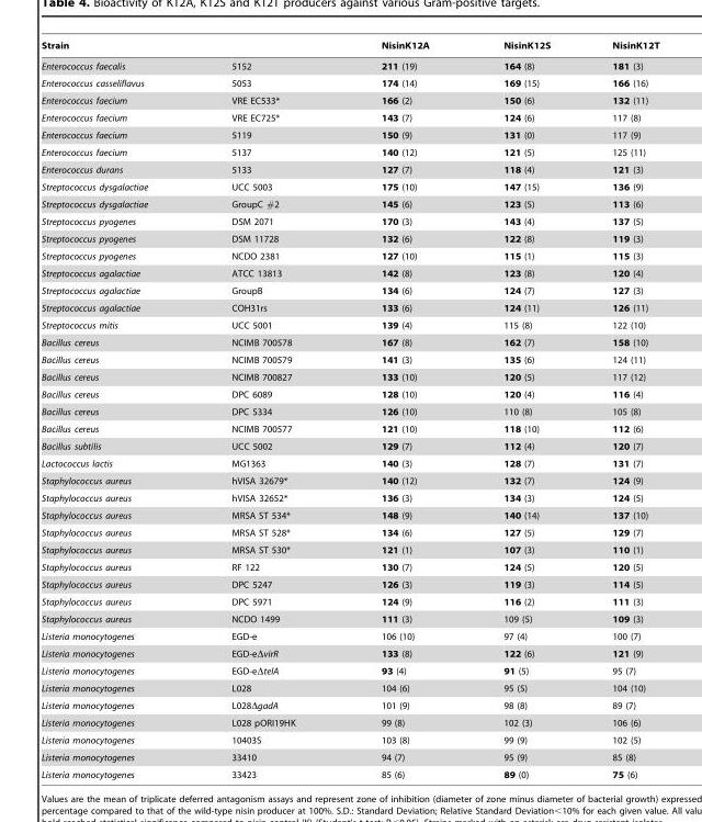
<table><thead><tr><td>Strain</td><td></td><td>NisinK12A</td><td>NisinK12S</td><td>NisinK12T</td></tr></thead><tbody><tr><td>Enterococcus faecalis</td><td>5152</td><td>211 (19)</td><td>164 (8)</td><td>181 (3)</td></tr><tr><td>Enterococcus casseliflavus</td><td>5053</td><td>174 (14)</td><td>169 (15)</td><td>166 (16)</td></tr><tr><td>Enterococcus faecium</td><td>VRE EC533*</td><td>166 (2)</td><td>150 (6)</td><td>132 (11)</td></tr><tr><td>Enterococcus faecium</td><td>VRE EC725*</td><td>143 (7)</td><td>124 (6)</td><td>117 (8)</td></tr><tr><td>Enterococcus faecium</td><td>5119</td><td>150 (9)</td><td>131 (0)</td><td>117 (9)</td></tr><tr><td>Enterococcus faecium</td><td>5137</td><td>140 (12)</td><td>121 (5)</td><td>125 (11)</td></tr><tr><td>Enterococcus durans</td><td>5133</td><td>127 (7)</td><td>118 (4)</td><td>121 (3)</td></tr><tr><td>Streptococcus dysgalactiae</td><td>UCC 5003</td><td>175 (10)</td><td>147 (15)</td><td>136 (9)</td></tr><tr><td>Streptococcus dysgalactiae</td><td>GroupC #2</td><td>145 (6)</td><td>123 (5)</td><td>113 (6)</td></tr><tr><td>Streptococcus pyogenes</td><td>DSM 2071</td><td>170 (3)</td><td>143 (4)</td><td>137 (5)</td></tr><tr><td>Streptococcus pyogenes</td><td>DSM 11728</td><td>132 (6)</td><td>122 (8)</td><td>119 (3)</td></tr><tr><td>Streptococcus pyogenes</td><td>NCDO 2381</td><td>127 (10)</td><td>115 (1)</td><td>115 (3)</td></tr><tr><td>Streptococcus agalactiae</td><td>ATCC 13813</td><td>142 (8)</td><td>123 (8)</td><td>120 (4)</td></tr><tr><td>Streptococcus agalactiae</td><td>GroupB</td><td>134 (6)</td><td>124 (7)</td><td>127 (3)</td></tr><tr><td>Streptococcus agalactiae</td><td>COH31rs</td><td>133 (6)</td><td>124 (11)</td><td>126 (11)</td></tr><tr><td>Streptococcus mitis</td><td>UCC 5001</td><td>139 (4)</td><td>115 (8)</td><td>122 (10)</td></tr><tr><td>Bacillus cereus</td><td>NCIMB 700578</td><td>167 (8)</td><td>162 (7)</td><td>158 (10)</td></tr><tr><td>Bacillus cereus</td><td>NCIMB 700579</td><td>141 (3)</td><td>135 (6)</td><td>124 (11)</td></tr><tr><td>Bacillus cereus</td><td>NCIMB 700827</td><td>133 (10)</td><td>120 (5)</td><td>117 (12)</td></tr><tr><td>Bacillus cereus</td><td>DPC 6089</td><td>128 (10)</td><td>120 (4)</td><td>116 (4)</td></tr><tr><td>Bacillus cereus</td><td>DPC 5334</td><td>126 (10)</td><td>110 (8)</td><td>105 (8)</td></tr><tr><td>Bacillus cereus</td><td>NCIMB 700577</td><td>121 (10)</td><td>118 (10)</td><td>112 (6)</td></tr><tr><td>Bacillus subtilis</td><td>UCC 5002</td><td>129 (7)</td><td>112 (4)</td><td>120 (7)</td></tr><tr><td>Lactococcus lactis</td><td>MG1363</td><td>140 (3)</td><td>128 (7)</td><td>131 (7)</td></tr><tr><td>Staphylococcus aureus</td><td>hVISA 32679*</td><td>140 (12)</td><td>132 (7)</td><td>124 (9)</td></tr><tr><td>Staphylococcus aureus</td><td>hVISA 32652*</td><td>136 (3)</td><td>134 (3)</td><td>124 (5)</td></tr><tr><td>Staphylococcus aureus</td><td>MRSA ST 534*</td><td>148 (9)</td><td>140 (14)</td><td>137 (10)</td></tr><tr><td>Staphylococcus aureus</td><td>MRSA ST 528*</td><td>134 (6)</td><td>127 (5)</td><td>129 (7)</td></tr><tr><td>Staphylococcus aureus</td><td>MRSA ST 530*</td><td>121 (1)</td><td>107 (3)</td><td>110 (1)</td></tr><tr><td>Staphylococcus aureus</td><td>RF 122</td><td>130 (7)</td><td>124 (5)</td><td>120 (5)</td></tr><tr><td>Staphylococcus aureus</td><td>DPC 5247</td><td>126 (3)</td><td>119 (3)</td><td>114 (5)</td></tr><tr><td>Staphylococcus aureus</td><td>DPC 5971</td><td>124 (9)</td><td>116 (2)</td><td>111 (3)</td></tr><tr><td>Staphylococcus aureus</td><td>NCDO 1499</td><td>111 (3)</td><td>109 (5)</td><td>109 (3)</td></tr><tr><td>Listeria monocytogenes</td><td>EGD-e</td><td>106 (10)</td><td>97 (4)</td><td>100 (7)</td></tr><tr><td>Listeria monocytogenes</td><td>EGD-eΔvirR</td><td>133 (8)</td><td>122 (6)</td><td>121 (9)</td></tr><tr><td>Listeria monocytogenes</td><td>EGD-eΔtelA</td><td>93 (4)</td><td>91 (5)</td><td>95 (7)</td></tr><tr><td>Listeria monocytogenes</td><td>L028</td><td>104 (6)</td><td>95 (5)</td><td>104 (10)</td></tr><tr><td>Listeria monocytogenes</td><td>L028ΔgadA</td><td>101 (9)</td><td>98 (8)</td><td>89 (7)</td></tr><tr><td>Listeria monocytogenes</td><td>L028 pORI19HK</td><td>99 (8)</td><td>102 (3)</td><td>106 (6)</td></tr><tr><td>Listeria monocytogenes</td><td>10403S</td><td>103 (8)</td><td>99 (9)</td><td>102 (5)</td></tr><tr><td>Listeria monocytogenes</td><td>33410</td><td>94 (7)</td><td>95 (9)</td><td>85 (8)</td></tr><tr><td>Listeria monocytogenes</td><td>33423</td><td>85 (6)</td><td>89 (0)</td><td>75 (6)</td></tr></tbody></table>